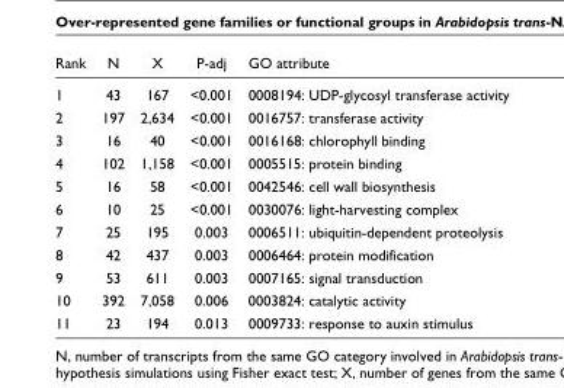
<table><thead><tr><td>Rank</td><td>N</td><td>X</td><td>P-adj</td><td>GO attribute</td></tr></thead><tbody><tr><td>1</td><td>43</td><td>167</td><td>&lt;0.001</td><td>0008194: UDP-glycosyl transferase activity</td></tr><tr><td>2</td><td>197</td><td>2,634</td><td>&lt;0.001</td><td>0016757: transferase activity</td></tr><tr><td>3</td><td>16</td><td>40</td><td>&lt;0.001</td><td>0016168: chlorophyll binding</td></tr><tr><td>4</td><td>102</td><td>1,158</td><td>&lt;0.001</td><td>0005515: protein binding</td></tr><tr><td>5</td><td>16</td><td>58</td><td>&lt;0.001</td><td>0042546: cell wall biosynthesis</td></tr><tr><td>6</td><td>10</td><td>25</td><td>&lt;0.001</td><td>0030076: light-harvesting complex</td></tr><tr><td>7</td><td>25</td><td>195</td><td>0.003</td><td>0006511: ubiquitin-dependent proteolysis</td></tr><tr><td>8</td><td>42</td><td>437</td><td>0.003</td><td>0006464: protein modification</td></tr><tr><td>9</td><td>53</td><td>611</td><td>0.003</td><td>0007165: signal transduction</td></tr><tr><td>10</td><td>392</td><td>7,058</td><td>0.006</td><td>0003824: catalytic activity</td></tr><tr><td>11</td><td>23</td><td>194</td><td>0.013</td><td>0009733: response to auxin stimulus</td></tr></tbody></table>